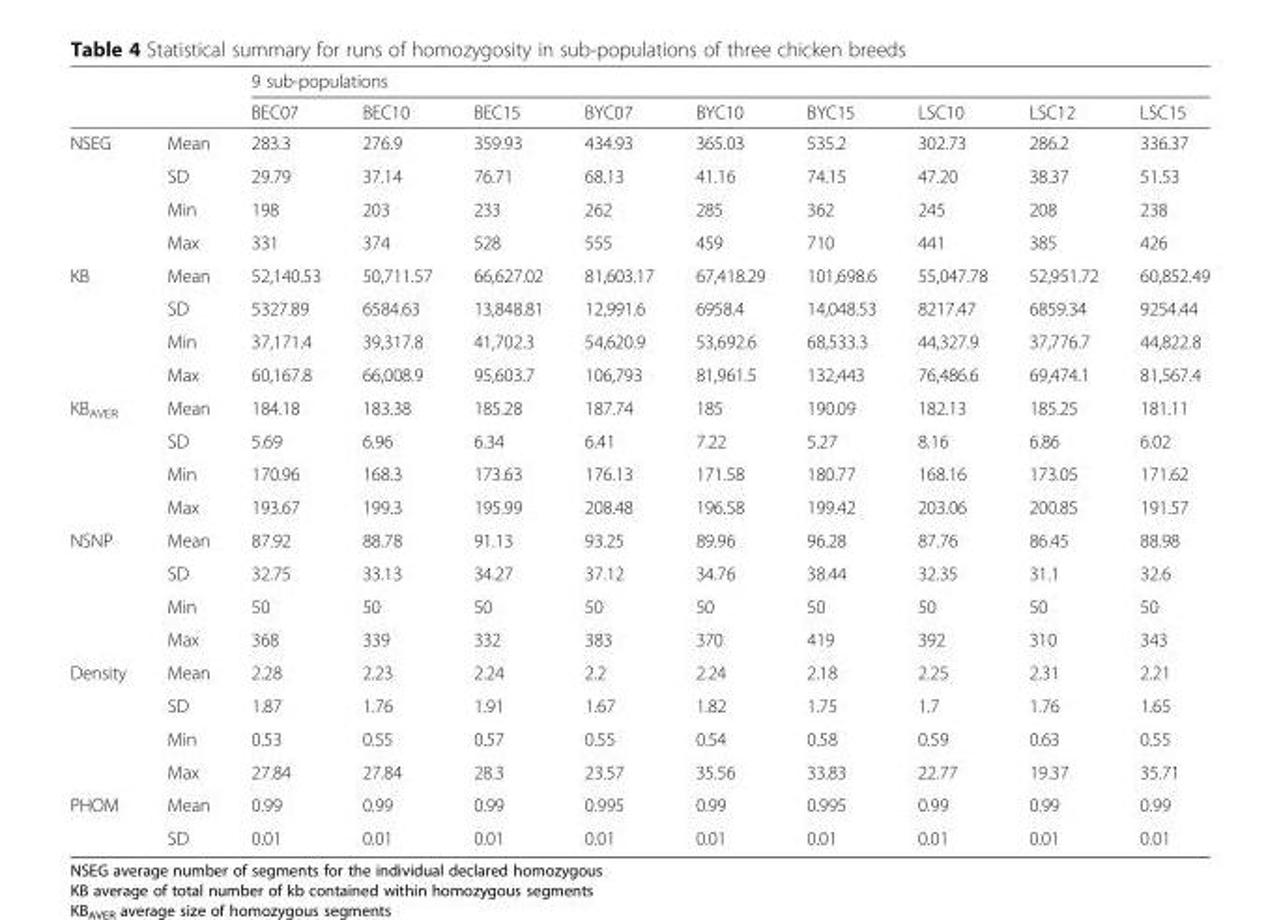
<table><thead><tr><td rowspan="2"></td><td rowspan="2"></td><td colspan="9">9 sub-populations</td></tr><tr><td>BEC07</td><td>BEC10</td><td>BEC15</td><td>BYC07</td><td>BYC10</td><td>BYC15</td><td>LSC10</td><td>LSC12</td><td>LSC15</td></tr></thead><tbody><tr><td rowspan="4">NSEG</td><td>Mean</td><td>283.3</td><td>276.9</td><td>359.93</td><td>434.93</td><td>365.03</td><td>535.2</td><td>302.73</td><td>286.2</td><td>336.37</td></tr><tr><td>SD</td><td>29.79</td><td>37.14</td><td>76.71</td><td>68.13</td><td>41.16</td><td>74.15</td><td>47.20</td><td>38.37</td><td>51.53</td></tr><tr><td>Min</td><td>198</td><td>203</td><td>233</td><td>262</td><td>285</td><td>362</td><td>245</td><td>208</td><td>238</td></tr><tr><td>Max</td><td>331</td><td>374</td><td>528</td><td>555</td><td>459</td><td>710</td><td>441</td><td>385</td><td>426</td></tr><tr><td rowspan="4">KB</td><td>Mean</td><td>52,140.53</td><td>50,711.57</td><td>66,627.02</td><td>81,603.17</td><td>67,418.29</td><td>101,698.6</td><td>55,047.78</td><td>52,951.72</td><td>60,852.49</td></tr><tr><td>SD</td><td>5327.89</td><td>6584.63</td><td>13,848.81</td><td>12,991.6</td><td>6958.4</td><td>14,048.53</td><td>8217.47</td><td>6859.34</td><td>9254.44</td></tr><tr><td>Min</td><td>37,171.4</td><td>39,317.8</td><td>41,702.3</td><td>54,620.9</td><td>53,692.6</td><td>68,533.3</td><td>44,327.9</td><td>37,776.7</td><td>44,822.8</td></tr><tr><td>Max</td><td>60,167.8</td><td>66,008.9</td><td>95,603.7</td><td>106,793</td><td>81,961.5</td><td>132,443</td><td>76,486.6</td><td>69,474.1</td><td>81,567.4</td></tr><tr><td rowspan="4">KB<sub>AVER</sub></td><td>Mean</td><td>184.18</td><td>183.38</td><td>185.28</td><td>187.74</td><td>185</td><td>190.09</td><td>182.13</td><td>185.25</td><td>181.11</td></tr><tr><td>SD</td><td>5.69</td><td>6.96</td><td>6.34</td><td>6.41</td><td>7.22</td><td>5.27</td><td>8.16</td><td>6.86</td><td>6.02</td></tr><tr><td>Min</td><td>170.96</td><td>168.3</td><td>173.63</td><td>176.13</td><td>171.58</td><td>180.77</td><td>168.16</td><td>173.05</td><td>171.62</td></tr><tr><td>Max</td><td>193.67</td><td>199.3</td><td>195.99</td><td>208.48</td><td>196.58</td><td>199.42</td><td>203.06</td><td>200.85</td><td>191.57</td></tr><tr><td rowspan="4">NSNP</td><td>Mean</td><td>87.92</td><td>88.78</td><td>91.13</td><td>93.25</td><td>89.96</td><td>96.28</td><td>87.76</td><td>86.45</td><td>88.98</td></tr><tr><td>SD</td><td>32.75</td><td>33.13</td><td>34.27</td><td>37.12</td><td>34.76</td><td>38.44</td><td>32.35</td><td>31.1</td><td>32.6</td></tr><tr><td>Min</td><td>50</td><td>50</td><td>50</td><td>50</td><td>50</td><td>50</td><td>50</td><td>50</td><td>50</td></tr><tr><td>Max</td><td>368</td><td>339</td><td>332</td><td>383</td><td>370</td><td>419</td><td>392</td><td>310</td><td>343</td></tr><tr><td rowspan="4">Density</td><td>Mean</td><td>2.28</td><td>2.23</td><td>2.24</td><td>2.2</td><td>2.24</td><td>2.18</td><td>2.25</td><td>2.31</td><td>2.21</td></tr><tr><td>SD</td><td>1.87</td><td>1.76</td><td>1.91</td><td>1.67</td><td>1.82</td><td>1.75</td><td>1.7</td><td>1.76</td><td>1.65</td></tr><tr><td>Min</td><td>0.53</td><td>0.55</td><td>0.57</td><td>0.55</td><td>0.54</td><td>0.58</td><td>0.59</td><td>0.63</td><td>0.55</td></tr><tr><td>Max</td><td>27.84</td><td>27.84</td><td>28.3</td><td>23.57</td><td>35.56</td><td>33.83</td><td>22.77</td><td>19.37</td><td>35.71</td></tr><tr><td rowspan="2">PHOM</td><td>Mean</td><td>0.99</td><td>0.99</td><td>0.99</td><td>0.995</td><td>0.99</td><td>0.995</td><td>0.99</td><td>0.99</td><td>0.99</td></tr><tr><td>SD</td><td>0.01</td><td>0.01</td><td>0.01</td><td>0.01</td><td>0.01</td><td>0.01</td><td>0.01</td><td>0.01</td><td>0.01</td></tr></tbody></table>